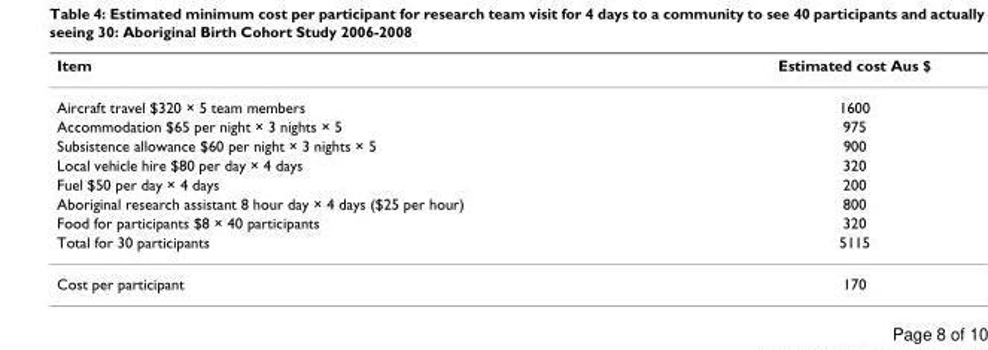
<table><thead><tr><td>Item</td><td>Estimated cost Aus $</td></tr></thead><tbody><tr><td>Aircraft travel $320 × 5 team members</td><td>1600</td></tr><tr><td>Accommodation $65 per night × 3 nights × 5</td><td>975</td></tr><tr><td>Subsistence allowance $60 per night × 3 nights × 5</td><td>900</td></tr><tr><td>Local vehicle hire $80 per day × 4 days</td><td>320</td></tr><tr><td>Fuel $50 per day × 4 days</td><td>200</td></tr><tr><td>Aboriginal research assistant 8 hour day × 4 days ($25 per hour)</td><td>800</td></tr><tr><td>Food for participants $8 × 40 participants</td><td>320</td></tr><tr><td>Total for 30 participants</td><td>5115</td></tr><tr><td>Cost per participant</td><td>170</td></tr></tbody></table>